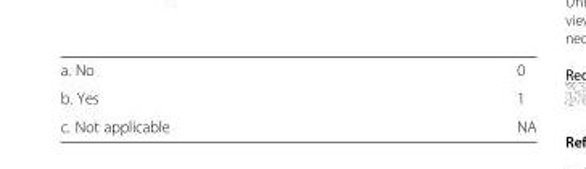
<table><tbody><tr><td>a. No</td><td>0</td></tr><tr><td>b. Yes</td><td>1</td></tr></tbody></table>